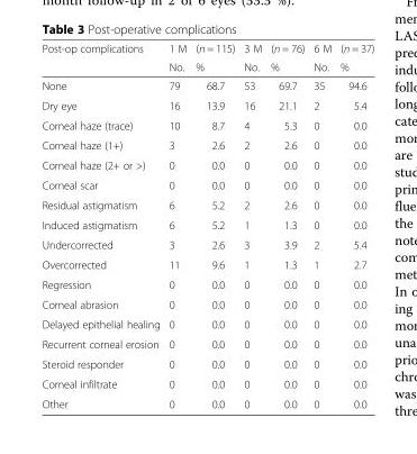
<table><thead><tr><td rowspan="2">Post-op complications</td><td rowspan="2">1 M No.</td><td rowspan="2">(n = 115) %</td><td rowspan="2">3 M No.</td><td rowspan="2">(n = 76) %</td><td rowspan="2">6 M No.</td><td rowspan="2">(n = 37) %</td></tr><tr></tr></thead><tbody><tr><td>None</td><td>79</td><td>68.7</td><td>53</td><td>69.7</td><td>35</td><td>94.6</td></tr><tr><td>Dry eye</td><td>16</td><td>13.9</td><td>16</td><td>21.1</td><td>2</td><td>5.4</td></tr><tr><td>Corneal haze (trace)</td><td>10</td><td>8.7</td><td>4</td><td>5.3</td><td>0</td><td>0.0</td></tr><tr><td>Corneal haze (1+)</td><td>3</td><td>2.6</td><td>2</td><td>2.6</td><td>0</td><td>0.0</td></tr><tr><td>Corneal haze (2+ or &gt;)</td><td>0</td><td>0.0</td><td>0</td><td>0.0</td><td>0</td><td>0.0</td></tr><tr><td>Corneal scar</td><td>0</td><td>0.0</td><td>0</td><td>0.0</td><td>0</td><td>0.0</td></tr><tr><td>Residual astigmatism</td><td>6</td><td>5.2</td><td>2</td><td>2.6</td><td>0</td><td>0.0</td></tr><tr><td>Induced astigmatism</td><td>6</td><td>5.2</td><td>1</td><td>1.3</td><td>0</td><td>0.0</td></tr><tr><td>Undercorrected</td><td>3</td><td>2.6</td><td>3</td><td>3.9</td><td>2</td><td>5.4</td></tr><tr><td>Overcorrected</td><td>11</td><td>9.6</td><td>1</td><td>1.3</td><td>1</td><td>2.7</td></tr><tr><td>Regression</td><td>0</td><td>0.0</td><td>0</td><td>0.0</td><td>0</td><td>0.0</td></tr><tr><td>Corneal abrasion</td><td>0</td><td>0.0</td><td>0</td><td>0.0</td><td>0</td><td>0.0</td></tr><tr><td>Delayed epithelial healing</td><td>0</td><td>0.0</td><td>0</td><td>0.0</td><td>0</td><td>0.0</td></tr><tr><td>Recurrent corneal erosion</td><td>0</td><td>0.0</td><td>0</td><td>0.0</td><td>0</td><td>0.0</td></tr><tr><td>Steroid responder</td><td>0</td><td>0.0</td><td>0</td><td>0.0</td><td>0</td><td>0.0</td></tr><tr><td>Corneal infiltrate</td><td>0</td><td>0.0</td><td>0</td><td>0.0</td><td>0</td><td>0.0</td></tr><tr><td>Other</td><td>0</td><td>0.0</td><td>0</td><td>0.0</td><td>0</td><td>0.0</td></tr></tbody></table>